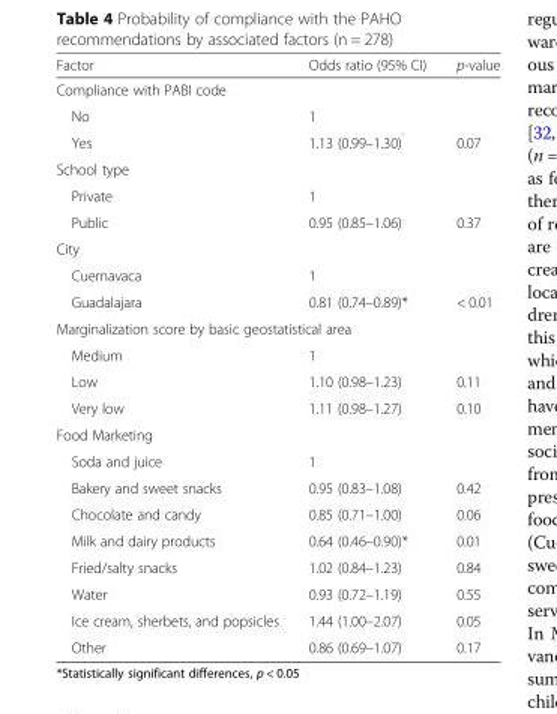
<table><thead><tr><td>Factor</td><td>Odds ratio (95% CI)</td><td>p-value</td></tr></thead><tbody><tr><td colspan="3">Compliance with PABI code</td></tr><tr><td>No</td><td>1</td><td></td></tr><tr><td>Yes</td><td>1.13 (0.99–1.30)</td><td>0.07</td></tr><tr><td colspan="3">School type</td></tr><tr><td>Private</td><td>1</td><td></td></tr><tr><td>Public</td><td>0.95 (0.85–1.06)</td><td>0.37</td></tr><tr><td colspan="3">City</td></tr><tr><td>Cuernavaca</td><td>1</td><td></td></tr><tr><td>Guadalajara</td><td>0.81 (0.74–0.89)*</td><td>&lt; 0.01</td></tr><tr><td colspan="3">Marginalization score by basic geostatistical area</td></tr><tr><td>Medium</td><td>1</td><td></td></tr><tr><td>Low</td><td>1.10 (0.98–1.23)</td><td>0.11</td></tr><tr><td>Very low</td><td>1.11 (0.98–1.27)</td><td>0.10</td></tr><tr><td colspan="3">Food Marketing</td></tr><tr><td>Soda and juice</td><td>1</td><td></td></tr><tr><td>Bakery and sweet snacks</td><td>0.95 (0.83–1.08)</td><td>0.42</td></tr><tr><td>Chocolate and candy</td><td>0.85 (0.71–1.00)</td><td>0.06</td></tr><tr><td>Milk and dairy products</td><td>0.64 (0.46–0.90)*</td><td>0.01</td></tr><tr><td>Fried/salty snacks</td><td>1.02 (0.84–1.23)</td><td>0.84</td></tr><tr><td>Water</td><td>0.93 (0.72–1.19)</td><td>0.55</td></tr><tr><td>Ice cream, sherbets, and popsicles</td><td>1.44 (1.00–2.07)</td><td>0.05</td></tr><tr><td>Other</td><td>0.86 (0.69–1.07)</td><td>0.17</td></tr></tbody></table>